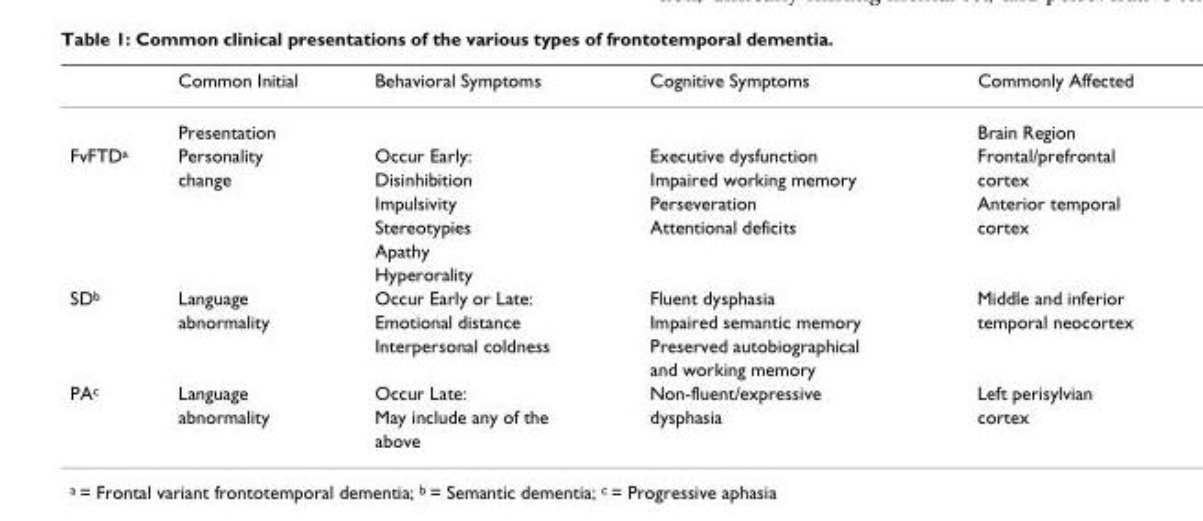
<table><thead><tr><td></td><td>Common Initial</td><td>Behavioral Symptoms</td><td>Cognitive Symptoms</td><td>Commonly Affected</td></tr></thead><tbody><tr><td></td><td>Presentation</td><td></td><td></td><td>Brain Region</td></tr><tr><td rowspan="6">FvFTD<sup>a</sup></td><td>Personality</td><td>Occur Early:</td><td>Executive dysfunction</td><td>Frontal/prefrontal</td></tr><tr><td>change</td><td>Disinhibition</td><td>Impaired working memory</td><td>cortex</td></tr><tr><td></td><td>Impulsivity</td><td>Perseveration</td><td>Anterior temporal</td></tr><tr><td></td><td>Stereotypies</td><td>Attentional deficits</td><td>cortex</td></tr><tr><td></td><td>Apathy</td><td></td><td></td></tr><tr><td></td><td>Hyperorality</td><td></td><td></td></tr><tr><td rowspan="4">SD<sup>b</sup></td><td>Language</td><td>Occur Early or Late:</td><td>Fluent dysphasia</td><td>Middle and inferior</td></tr><tr><td>abnormality</td><td>Emotional distance</td><td>Impaired semantic memory</td><td>temporal neocortex</td></tr><tr><td></td><td>Interpersonal coldness</td><td>Preserved autobiographical</td><td></td></tr><tr><td></td><td></td><td>and working memory</td><td></td></tr><tr><td rowspan="3">PA<sup>c</sup></td><td>Language</td><td>Occur Late:</td><td>Non-fluent/expressive</td><td>Left perisylvian</td></tr><tr><td>abnormality</td><td>May include any of the</td><td>dysphasia</td><td>cortex</td></tr><tr><td></td><td>above</td><td></td><td></td></tr></tbody></table>